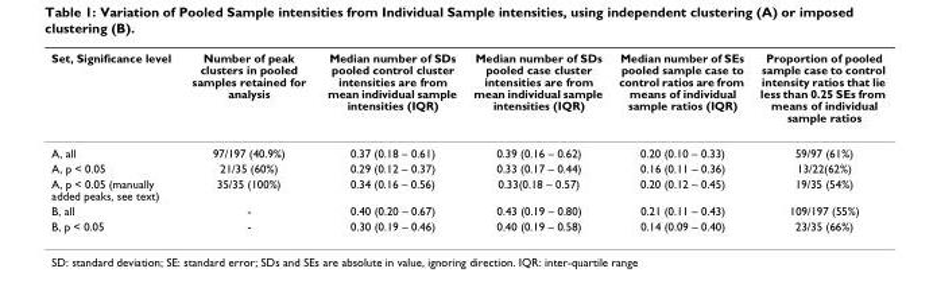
<table><thead><tr><td>Set, Significance level</td><td>Number of peak clusters in pooled samples retained for analysis</td><td>Median number of SDs pooled control cluster intensities are from mean individual sample intensities (IQR)</td><td>Median number of SDs pooled case cluster intensities are from mean individual sample intensities (IQR)</td><td>Median number of SEs pooled sample case to control ratios are from means of individual sample ratios (IQR)</td><td>Proportion of pooled sample case to control intensity ratios that lie less than 0.25 SEs from means of individual sample ratios</td></tr></thead><tbody><tr><td>A, all</td><td>97/197 (40.9%)</td><td>0.37 (0.18 – 0.61)</td><td>0.39 (0.16 – 0.62)</td><td>0.20 (0.10 – 0.33)</td><td>59/97 (61%)</td></tr><tr><td>A, p &lt; 0.05</td><td>21/35 (60%)</td><td>0.29 (0.12 – 0.37)</td><td>0.33 (0.17 – 0.44)</td><td>0.16 (0.11 – 0.36)</td><td>13/22(62%)</td></tr><tr><td>A, p &lt; 0.05 (manually added peaks, see text)</td><td>35/35 (100%)</td><td>0.34 (0.16 – 0.56)</td><td>0.33(0.18 – 0.57)</td><td>0.20 (0.12 – 0.45)</td><td>19/35 (54%)</td></tr><tr><td>B, all</td><td>-</td><td>0.40 (0.20 – 0.67)</td><td>0.43 (0.19 – 0.80)</td><td>0.21 (0.11 – 0.43)</td><td>109/197 (55%)</td></tr><tr><td>B, p &lt; 0.05</td><td>-</td><td>0.30 (0.19 – 0.46)</td><td>0.40 (0.19 – 0.58)</td><td>0.14 (0.09 – 0.40)</td><td>23/35 (66%)</td></tr></tbody></table>